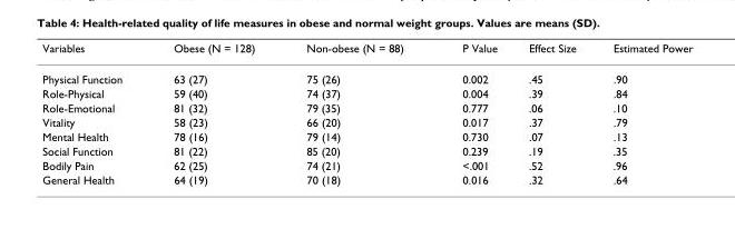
<table><thead><tr><td>Variables</td><td>Obese (N = 128)</td><td>Non-obese (N = 88)</td><td>P Value</td><td>Effect Size</td><td>Estimated Power</td></tr></thead><tbody><tr><td>Physical Function</td><td>63 (27)</td><td>75 (26)</td><td>0.002</td><td>.45</td><td>.90</td></tr><tr><td>Role-Physical</td><td>59 (40)</td><td>74 (37)</td><td>0.004</td><td>.39</td><td>.84</td></tr><tr><td>Role-Emotional</td><td>81 (32)</td><td>79 (35)</td><td>0.777</td><td>.06</td><td>.10</td></tr><tr><td>Vitality</td><td>58 (23)</td><td>66 (20)</td><td>0.017</td><td>.37</td><td>.79</td></tr><tr><td>Mental Health</td><td>78 (16)</td><td>79 (14)</td><td>0.730</td><td>.07</td><td>.13</td></tr><tr><td>Social Function</td><td>81 (22)</td><td>85 (20)</td><td>0.239</td><td>.19</td><td>.35</td></tr><tr><td>Bodily Pain</td><td>62 (25)</td><td>74 (21)</td><td>&lt;.001</td><td>.52</td><td>.96</td></tr><tr><td>General Health</td><td>64 (19)</td><td>70 (18)</td><td>0.016</td><td>.32</td><td>.64</td></tr></tbody></table>